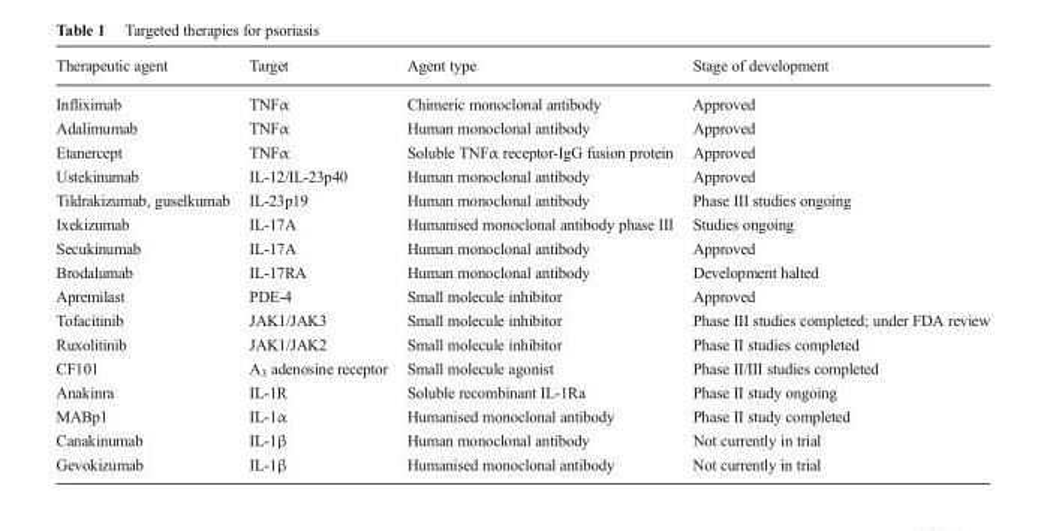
<table><thead><tr><td>Therapeutic agent</td><td>Target</td><td>Agent type</td><td>Stage of development</td></tr></thead><tbody><tr><td>Infliximab</td><td>TNFα</td><td>Chimeric monoclonal antibody</td><td>Approved</td></tr><tr><td>Adalimumab</td><td>TNFα</td><td>Human monoclonal antibody</td><td>Approved</td></tr><tr><td>Etanercept</td><td>TNFα</td><td>Soluble TNFα receptor-IgG fusion protein</td><td>Approved</td></tr><tr><td>Ustekinumab</td><td>IL-12/IL-23p40</td><td>Human monoclonal antibody</td><td>Approved</td></tr><tr><td>Tildrakizumab, guselkumab</td><td>IL-23p19</td><td>Human monoclonal antibody</td><td>Phase III studies ongoing</td></tr><tr><td>Ixekizumab</td><td>IL-17A</td><td>Humanised monoclonal antibody phase III</td><td>Studies ongoing</td></tr><tr><td>Secukinumab</td><td>IL-17A</td><td>Human monoclonal antibody</td><td>Approved</td></tr><tr><td>Brodalumab</td><td>IL-17RA</td><td>Human monoclonal antibody</td><td>Development halted</td></tr><tr><td>Apremilast</td><td>PDE-4</td><td>Small molecule inhibitor</td><td>Approved</td></tr><tr><td>Tofacitinib</td><td>JAK1/JAK3</td><td>Small molecule inhibitor</td><td>Phase III studies completed; under FDA review</td></tr><tr><td>Ruxolitinib</td><td>JAK1/JAK2</td><td>Small molecule inhibitor</td><td>Phase II studies completed</td></tr><tr><td>CF101</td><td>A<sub>3</sub> adenosine receptor</td><td>Small molecule agonist</td><td>Phase II/III studies completed</td></tr><tr><td>Anakinra</td><td>IL-1R</td><td>Soluble recombinant IL-1Ra</td><td>Phase II study ongoing</td></tr><tr><td>MABp1</td><td>IL-1α</td><td>Humanised monoclonal antibody</td><td>Phase II study completed</td></tr><tr><td>Canakinumab</td><td>IL-1β</td><td>Human monoclonal antibody</td><td>Not currently in trial</td></tr><tr><td>Gevokizumab</td><td>IL-1β</td><td>Humanised monoclonal antibody</td><td>Not currently in trial</td></tr></tbody></table>